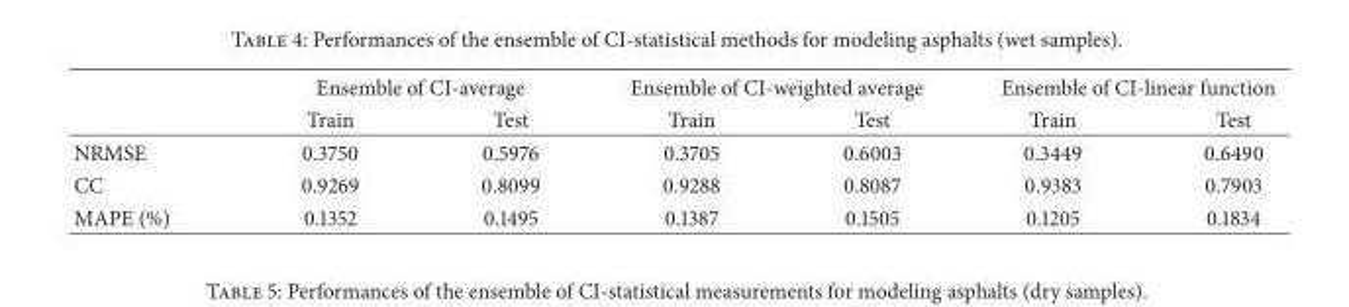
<table><thead><tr><td rowspan="2"></td><td colspan="2">Ensemble of CI-average</td><td colspan="2">Ensemble of CI-weighted average</td><td colspan="2">Ensemble of CI-linear function</td></tr><tr><td>Train</td><td>Test</td><td>Train</td><td>Test</td><td>Train</td><td>Test</td></tr></thead><tbody><tr><td>NRMSE</td><td>0.3750</td><td>0.5976</td><td>0.3705</td><td>0.6003</td><td>0.3449</td><td>0.6490</td></tr><tr><td>CC</td><td>0.9269</td><td>0.8099</td><td>0.9288</td><td>0.8087</td><td>0.9383</td><td>0.7903</td></tr><tr><td>MAPE (%)</td><td>0.1352</td><td>0.1495</td><td>0.1387</td><td>0.1505</td><td>0.1205</td><td>0.1834</td></tr></tbody></table>